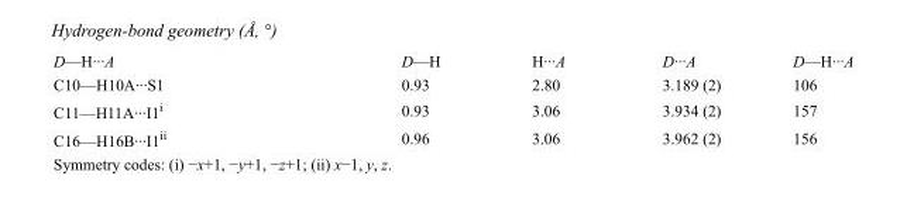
<table><tbody><tr><td>D—H···A</td><td>D—H</td><td>H···A</td><td>D···A</td><td>D—H···A</td></tr><tr><td>C10—H10A···S1</td><td>0.93</td><td>2.80</td><td>3.189 (2)</td><td>106</td></tr><tr><td>C11—H11A···I1<sup>i</sup></td><td>0.93</td><td>3.06</td><td>3.934 (2)</td><td>157</td></tr><tr><td>C16—H16B···I1<sup>ii</sup></td><td>0.96</td><td>3.06</td><td>3.962 (2)</td><td>156</td></tr></tbody></table>